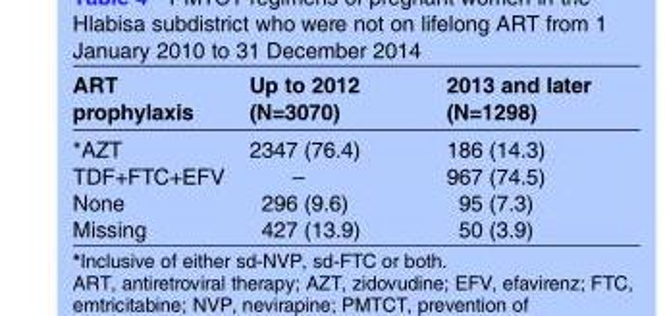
<table><thead><tr><td>ART prophylaxis</td><td>Up to 2012 (N=3070)</td><td>2013 and later (N=1298)</td></tr></thead><tbody><tr><td>*AZT</td><td>2347 (76.4)</td><td>186 (14.3)</td></tr><tr><td>TDF+FTC+EFV</td><td>–</td><td>967 (74.5)</td></tr><tr><td>None</td><td>296 (9.6)</td><td>95 (7.3)</td></tr><tr><td>Missing</td><td>427 (13.9)</td><td>50 (3.9)</td></tr></tbody></table>